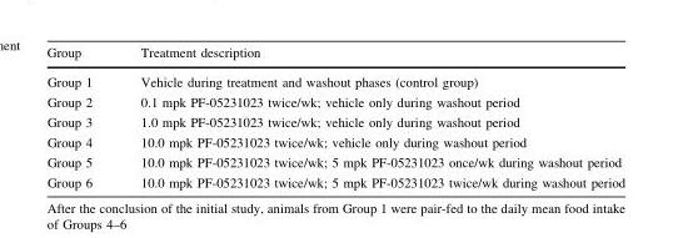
<table><thead><tr><td>Group</td><td>Treatment description</td></tr></thead><tbody><tr><td>Group 1</td><td>Vehicle during treatment and washout phases (control group)</td></tr><tr><td>Group 2</td><td>0.1 mpk PF-05231023 twice/wk; vehicle only during washout period</td></tr><tr><td>Group 3</td><td>1.0 mpk PF-05231023 twice/wk; vehicle only during washout period</td></tr><tr><td>Group 4</td><td>10.0 mpk PF-05231023 twice/wk; vehicle only during washout period</td></tr><tr><td>Group 5</td><td>10.0 mpk PF-05231023 twice/wk; 5 mpk PF-05231023 once/wk during washout period</td></tr><tr><td>Group 6</td><td>10.0 mpk PF-05231023 twice/wk; 5 mpk PF-05231023 twice/wk during washout period</td></tr></tbody></table>